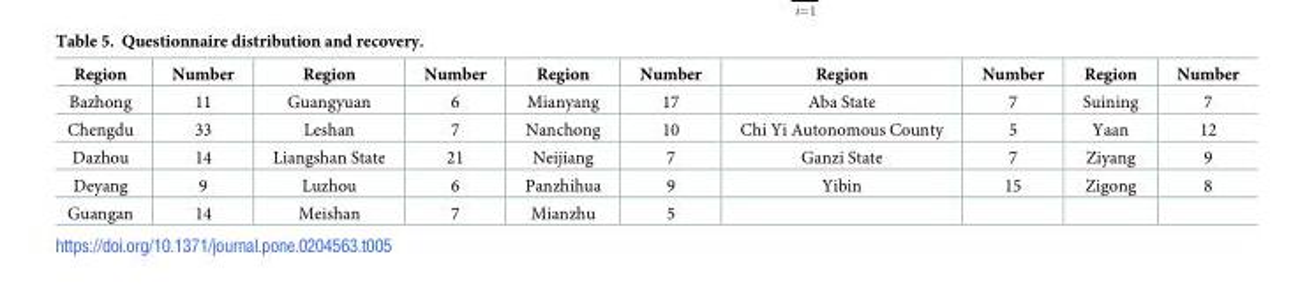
<table><thead><tr><td>Region</td><td>Number</td><td>Region</td><td>Number</td><td>Region</td><td>Number</td><td>Region</td><td>Number</td><td>Region</td><td>Number</td></tr></thead><tbody><tr><td>Bazhong</td><td>11</td><td>Guangyuan</td><td>6</td><td>Mianyang</td><td>17</td><td>Aba State</td><td>7</td><td>Suining</td><td>7</td></tr><tr><td>Chengdu</td><td>33</td><td>Leshan</td><td>7</td><td>Nanchong</td><td>10</td><td>Chi Yi Autonomous County</td><td>5</td><td>Yaan</td><td>12</td></tr><tr><td>Dazhou</td><td>14</td><td>Liangshan State</td><td>21</td><td>Neijiang</td><td>7</td><td>Ganzi State</td><td>7</td><td>Ziyang</td><td>9</td></tr><tr><td>Deyang</td><td>9</td><td>Luzhou</td><td>6</td><td>Panzhihua</td><td>9</td><td>Yibin</td><td>15</td><td>Zigong</td><td>8</td></tr><tr><td>Guangan</td><td>14</td><td>Meishan</td><td>7</td><td>Mianzhu</td><td>5</td><td></td><td></td><td></td><td></td></tr></tbody></table>